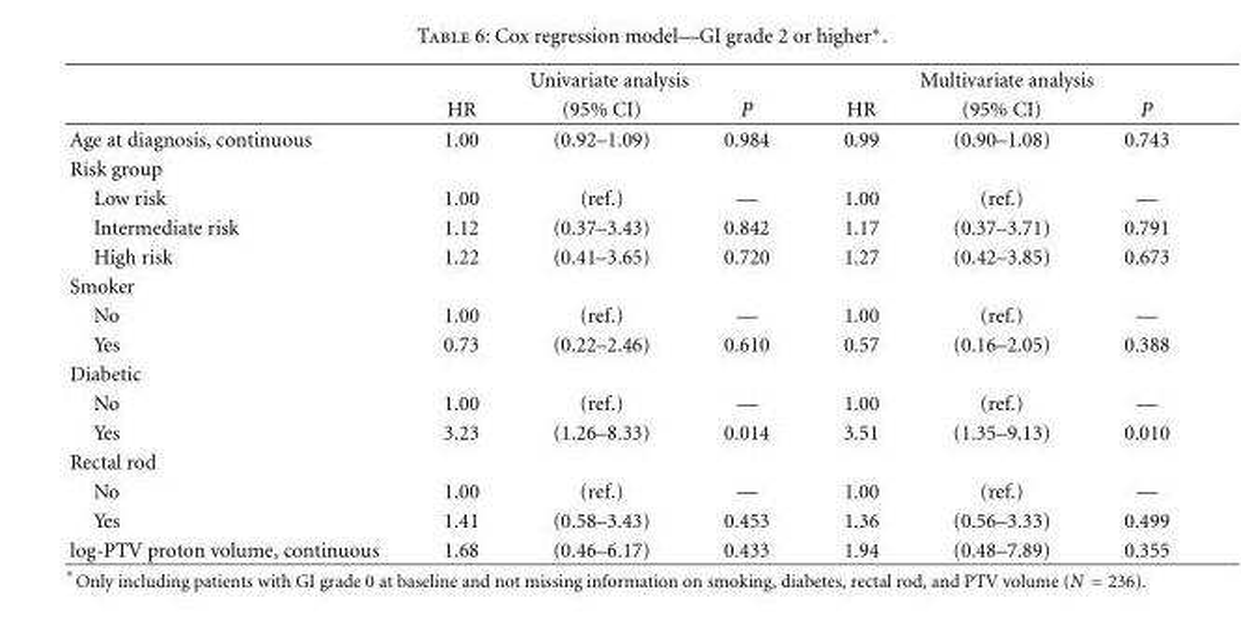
<table><thead><tr><td rowspan="2"></td><td colspan="3">Univariate analysis</td><td colspan="3">Multivariate analysis</td></tr><tr><td>HR</td><td>(95% CI)</td><td>P</td><td>HR</td><td>(95% CI)</td><td>P</td></tr></thead><tbody><tr><td>Age at diagnosis, continuous</td><td>1.00</td><td>(0.92–1.09)</td><td>0.984</td><td>0.99</td><td>(0.90–1.08)</td><td>0.743</td></tr><tr><td colspan="7">Risk group</td></tr><tr><td>Low risk</td><td>1.00</td><td>(ref.)</td><td>—</td><td>1.00</td><td>(ref.)</td><td>—</td></tr><tr><td>Intermediate risk</td><td>1.12</td><td>(0.37–3.43)</td><td>0.842</td><td>1.17</td><td>(0.37–3.71)</td><td>0.791</td></tr><tr><td>High risk</td><td>1.22</td><td>(0.41–3.65)</td><td>0.720</td><td>1.27</td><td>(0.42–3.85)</td><td>0.673</td></tr><tr><td colspan="7">Smoker</td></tr><tr><td>No</td><td>1.00</td><td>(ref.)</td><td>—</td><td>1.00</td><td>(ref.)</td><td>—</td></tr><tr><td>Yes</td><td>0.73</td><td>(0.22–2.46)</td><td>0.610</td><td>0.57</td><td>(0.16–2.05)</td><td>0.388</td></tr><tr><td colspan="7">Diabetic</td></tr><tr><td>No</td><td>1.00</td><td>(ref.)</td><td>—</td><td>1.00</td><td>(ref.)</td><td>—</td></tr><tr><td>Yes</td><td>3.23</td><td>(1.26–8.33)</td><td>0.014</td><td>3.51</td><td>(1.35–9.13)</td><td>0.010</td></tr><tr><td colspan="7">Rectal rod</td></tr><tr><td>No</td><td>1.00</td><td>(ref.)</td><td>—</td><td>1.00</td><td>(ref.)</td><td>—</td></tr><tr><td>Yes</td><td>1.41</td><td>(0.58–3.43)</td><td>0.453</td><td>1.36</td><td>(0.56–3.33)</td><td>0.499</td></tr><tr><td>log-PTV proton volume, continuous</td><td>1.68</td><td>(0.46–6.17)</td><td>0.433</td><td>1.94</td><td>(0.48–7.89)</td><td>0.355</td></tr></tbody></table>